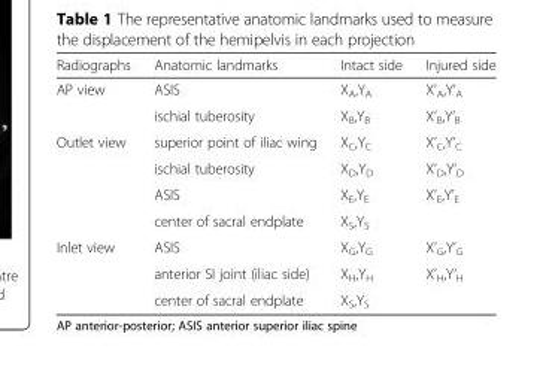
<table><thead><tr><td>Radiographs</td><td>Anatomic landmarks</td><td>Intact side</td><td>Injured side</td></tr></thead><tbody><tr><td rowspan="2">AP view</td><td>ASIS</td><td>X<sub>A</sub>,Y<sub>A</sub></td><td>X’<sub>A</sub>,Y’<sub>A</sub></td></tr><tr><td>ischial tuberosity</td><td>X<sub>B</sub>,Y<sub>B</sub></td><td>X’<sub>B</sub>,Y’<sub>B</sub></td></tr><tr><td rowspan="4">Outlet view</td><td>superior point of iliac wing</td><td>X<sub>C</sub>,Y<sub>C</sub></td><td>X’<sub>C</sub>,Y’<sub>C</sub></td></tr><tr><td>ischial tuberosity</td><td>X<sub>D</sub>,Y<sub>D</sub></td><td>X’<sub>D</sub>,Y’<sub>D</sub></td></tr><tr><td>ASIS</td><td>X<sub>E</sub>,Y<sub>E</sub></td><td>X’<sub>E</sub>,Y’<sub>E</sub></td></tr><tr><td>center of sacral endplate</td><td>X<sub>S</sub>,Y<sub>S</sub></td><td></td></tr><tr><td rowspan="3">Inlet view</td><td>ASIS</td><td>X<sub>G</sub>,Y<sub>G</sub></td><td>X’<sub>G</sub>,Y’<sub>G</sub></td></tr><tr><td>anterior SI joint (iliac side)</td><td>X<sub>H</sub>,Y<sub>H</sub></td><td>X’<sub>H</sub>,Y’<sub>H</sub></td></tr><tr><td>center of sacral endplate</td><td>X<sub>S</sub>,Y<sub>S</sub></td><td></td></tr></tbody></table>